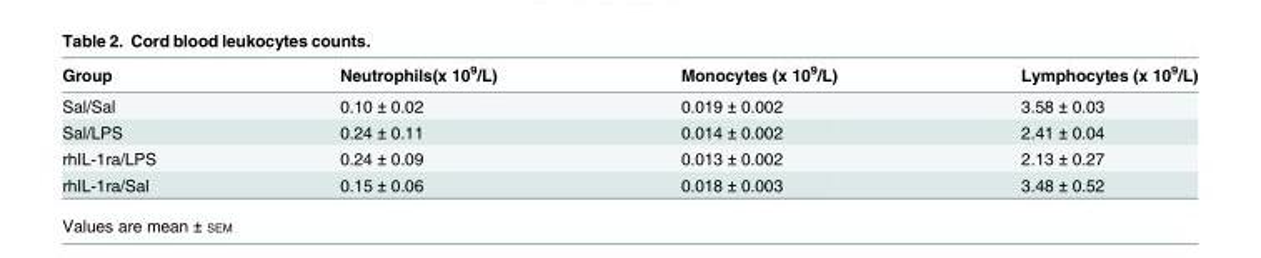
<table><thead><tr><td>Group</td><td>Neutrophils(x 10<sup>9</sup>/L)</td><td>Monocytes (x 10<sup>9</sup>/L)</td><td>Lymphocytes (x 10<sup>9</sup>/L)</td></tr></thead><tbody><tr><td>Sal/Sal</td><td>0.10 ± 0.02</td><td>0.019 ± 0.002</td><td>3.58 ± 0.03</td></tr><tr><td>Sal/LPS</td><td>0.24 ± 0.11</td><td>0.014 ± 0.002</td><td>2.41 ± 0.04</td></tr><tr><td>rhIL-1ra/LPS</td><td>0.24 ± 0.09</td><td>0.013 ± 0.002</td><td>2.13 ± 0.27</td></tr><tr><td>rhIL-1ra/Sal</td><td>0.15 ± 0.06</td><td>0.018 ± 0.003</td><td>3.48 ± 0.52</td></tr></tbody></table>